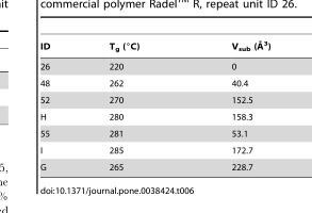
<table><thead><tr><td>ID</td><td>T<sub>g</sub> (°C)</td><td>Vsub (A˚ 3)</td></tr></thead><tbody><tr><td>26</td><td>220</td><td>0</td></tr><tr><td>48</td><td>262</td><td>40.4</td></tr><tr><td>52</td><td>270</td><td>152.5</td></tr><tr><td>H</td><td>280</td><td>158.3</td></tr><tr><td>55</td><td>281</td><td>53.1</td></tr><tr><td>I</td><td>285</td><td>172.7</td></tr><tr><td>G</td><td>265</td><td>228.7</td></tr></tbody></table>